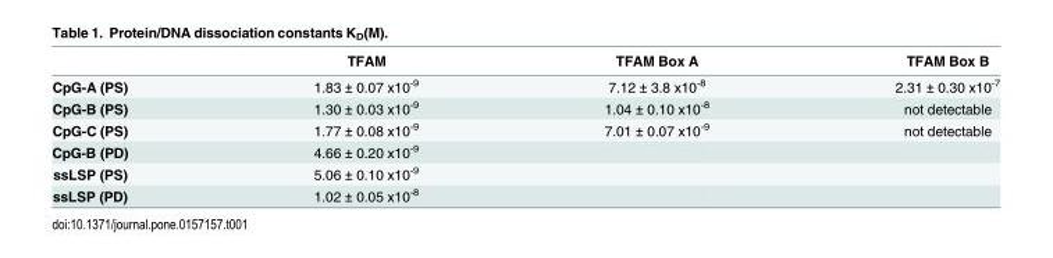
<table><thead><tr><td></td><td>TFAM</td><td>TFAM Box A</td><td>TFAM Box B</td></tr></thead><tbody><tr><td>CpG-A (PS)</td><td>1.83 ± 0.07 x10<sup>-9</sup></td><td>7.12 ± 3.8 x10<sup>-8</sup></td><td>2.31 ± 0.30 x10<sup>-7</sup></td></tr><tr><td>CpG-B (PS)</td><td>1.30 ± 0.03 x10<sup>-9</sup></td><td>1.04 ± 0.10 x10<sup>-8</sup></td><td>not detectable</td></tr><tr><td>CpG-C (PS)</td><td>1.77 ± 0.08 x10<sup>-9</sup></td><td>7.01 ± 0.07 x10<sup>-9</sup></td><td>not detectable</td></tr><tr><td>CpG-B (PD)</td><td>4.66 ± 0.20 x10<sup>-9</sup></td><td></td><td></td></tr><tr><td>ssLSP (PS)</td><td>5.06 ± 0.10 x10<sup>-9</sup></td><td></td><td></td></tr><tr><td>ssLSP (PD)</td><td>1.02 ± 0.05 x10<sup>-8</sup></td><td></td><td></td></tr></tbody></table>